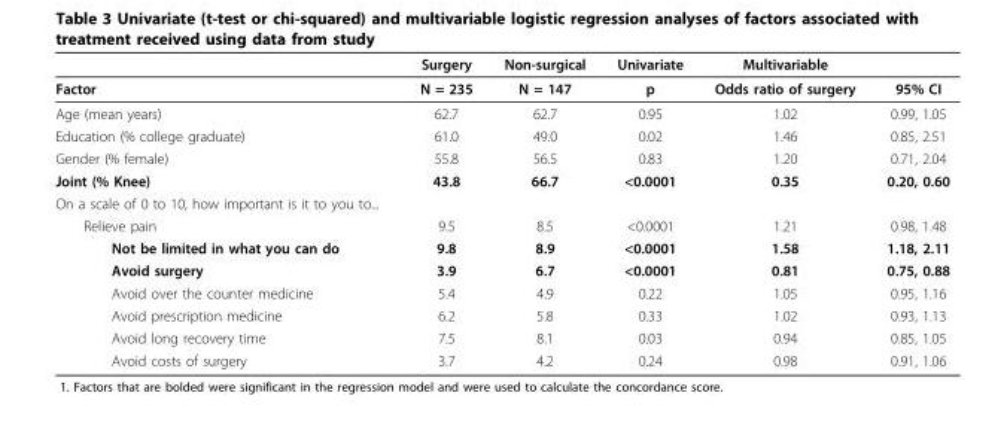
<table><thead><tr><td></td><td>Surgery</td><td>Non-surgical</td><td>Univariate</td><td>Multivariable</td><td></td></tr></thead><tbody><tr><td>Factor</td><td>N = 235</td><td>N = 147</td><td>p</td><td>Odds ratio of surgery</td><td>95% CI</td></tr><tr><td>Age (mean years)</td><td>62.7</td><td>62.7</td><td>0.95</td><td>1.02</td><td>0.99, 1.05</td></tr><tr><td>Education (% college graduate)</td><td>61.0</td><td>49.0</td><td>0.02</td><td>1.46</td><td>0.85, 2.51</td></tr><tr><td>Gender (% female)</td><td>55.8</td><td>56.5</td><td>0.83</td><td>1.20</td><td>0.71, 2.04</td></tr><tr><td>Joint (% Knee)</td><td>43.8</td><td>66.7</td><td>&lt;0.0001</td><td>0.35</td><td>0.20, 0.60</td></tr><tr><td colspan="6">On a scale of 0 to 10, how important is it to you to...</td></tr><tr><td>Relieve pain</td><td>9.5</td><td>8.5</td><td>&lt;0.0001</td><td>1.21</td><td>0.98, 1.48</td></tr><tr><td>Not be limited in what you can do</td><td>9.8</td><td>8.9</td><td>&lt;0.0001</td><td>1.58</td><td>1.18, 2.11</td></tr><tr><td>Avoid surgery</td><td>3.9</td><td>6.7</td><td>&lt;0.0001</td><td>0.81</td><td>0.75, 0.88</td></tr><tr><td>Avoid over the counter medicine</td><td>5.4</td><td>4.9</td><td>0.22</td><td>1.05</td><td>0.95, 1.16</td></tr><tr><td>Avoid prescription medicine</td><td>6.2</td><td>5.8</td><td>0.33</td><td>1.02</td><td>0.93, 1.13</td></tr><tr><td>Avoid long recovery time</td><td>7.5</td><td>8.1</td><td>0.03</td><td>0.94</td><td>0.85, 1.05</td></tr><tr><td>Avoid costs of surgery</td><td>3.7</td><td>4.2</td><td>0.24</td><td>0.98</td><td>0.91, 1.06</td></tr></tbody></table>